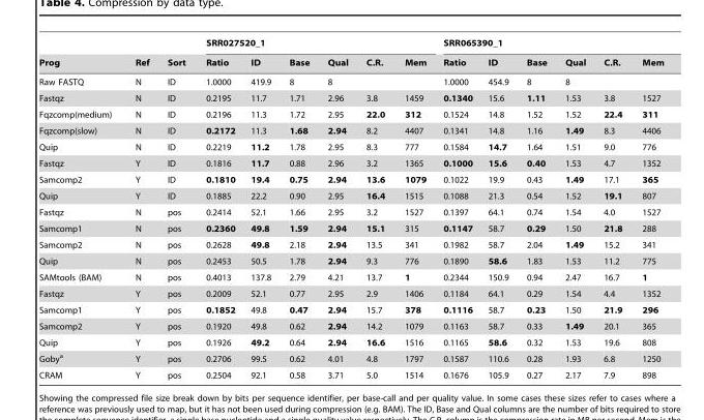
<table><thead><tr><td rowspan="2">Prog</td><td rowspan="2">Ref</td><td rowspan="2">Sort</td><td colspan="6">SRR027520_1</td><td colspan="6">SRR065390_1</td></tr><tr><td>Ratio</td><td>ID</td><td>Base</td><td>Qual</td><td>C.R.</td><td>Mem</td><td>Ratio</td><td>ID</td><td>Base</td><td>Qual</td><td>C.R.</td><td>Mem</td></tr></thead><tbody><tr><td>Raw FASTQ</td><td>N</td><td>ID</td><td>1.0000</td><td>419.9</td><td>8</td><td>8</td><td></td><td></td><td>1.0000</td><td>454.9</td><td>8</td><td>8</td><td></td><td></td></tr><tr><td>Fastqz</td><td>N</td><td>ID</td><td>0.2195</td><td>11.7</td><td>1.71</td><td>2.96</td><td>3.8</td><td>1459</td><td>0.1340</td><td>15.6</td><td>1.11</td><td>1.53</td><td>3.8</td><td>1527</td></tr><tr><td>Fqzcomp(medium)</td><td>N</td><td>ID</td><td>0.2196</td><td>11.3</td><td>1.72</td><td>2.95</td><td>22.0</td><td>312</td><td>0.1524</td><td>14.8</td><td>1.52</td><td>1.52</td><td>22.4</td><td>311</td></tr><tr><td>Fqzcomp(slow)</td><td>N</td><td>ID</td><td>0.2172</td><td>11.3</td><td>1.68</td><td>2.94</td><td>8.2</td><td>4407</td><td>0.1341</td><td>14.8</td><td>1.16</td><td>1.49</td><td>8.3</td><td>4406</td></tr><tr><td>Quip</td><td>N</td><td>ID</td><td>0.2219</td><td>11.2</td><td>1.78</td><td>2.95</td><td>8.3</td><td>777</td><td>0.1584</td><td>14.7</td><td>1.64</td><td>1.51</td><td>9.0</td><td>776</td></tr><tr><td>Fastqz</td><td>Y</td><td>ID</td><td>0.1816</td><td>11.7</td><td>0.88</td><td>2.96</td><td>3.2</td><td>1365</td><td>0.1000</td><td>15.6</td><td>0.40</td><td>1.53</td><td>4.7</td><td>1352</td></tr><tr><td>Samcomp2</td><td>Y</td><td>ID</td><td>0.1810</td><td>19.4</td><td>0.75</td><td>2.94</td><td>13.6</td><td>1079</td><td>0.1022</td><td>19.9</td><td>0.43</td><td>1.49</td><td>17.1</td><td>365</td></tr><tr><td>Quip</td><td>Y</td><td>ID</td><td>0.1885</td><td>22.2</td><td>0.90</td><td>2.95</td><td>16.4</td><td>1515</td><td>0.1088</td><td>21.3</td><td>0.54</td><td>1.52</td><td>19.1</td><td>807</td></tr><tr><td>Fastqz</td><td>N</td><td>pos</td><td>0.2414</td><td>52.1</td><td>1.66</td><td>2.95</td><td>3.2</td><td>1527</td><td>0.1397</td><td>64.1</td><td>0.74</td><td>1.54</td><td>4.0</td><td>1527</td></tr><tr><td>Samcomp1</td><td>N</td><td>pos</td><td>0.2360</td><td>49.8</td><td>1.59</td><td>2.94</td><td>15.1</td><td>315</td><td>0.1147</td><td>58.7</td><td>0.29</td><td>1.50</td><td>21.8</td><td>288</td></tr><tr><td>Samcomp2</td><td>N</td><td>pos</td><td>0.2628</td><td>49.8</td><td>2.18</td><td>2.94</td><td>13.5</td><td>341</td><td>0.1982</td><td>58.7</td><td>2.04</td><td>1.49</td><td>15.2</td><td>341</td></tr><tr><td>Quip</td><td>N</td><td>pos</td><td>0.2453</td><td>50.5</td><td>1.78</td><td>2.94</td><td>9.3</td><td>776</td><td>0.1890</td><td>58.6</td><td>1.83</td><td>1.53</td><td>11.2</td><td>775</td></tr><tr><td>SAMtools (BAM)</td><td>N</td><td>pos</td><td>0.4013</td><td>137.8</td><td>2.79</td><td>4.21</td><td>13.7</td><td>1</td><td>0.2344</td><td>150.9</td><td>0.94</td><td>2.47</td><td>16.7</td><td>1</td></tr><tr><td>Fastqz</td><td>Y</td><td>pos</td><td>0.2009</td><td>52.1</td><td>0.77</td><td>2.95</td><td>2.9</td><td>1406</td><td>0.1184</td><td>64.1</td><td>0.29</td><td>1.54</td><td>4.4</td><td>1352</td></tr><tr><td>Samcomp1</td><td>Y</td><td>pos</td><td>0.1852</td><td>49.8</td><td>0.47</td><td>2.94</td><td>15.7</td><td>378</td><td>0.1116</td><td>58.7</td><td>0.23</td><td>1.50</td><td>21.9</td><td>296</td></tr><tr><td>Samcomp2</td><td>Y</td><td>pos</td><td>0.1920</td><td>49.8</td><td>0.62</td><td>2.94</td><td>14.2</td><td>1079</td><td>0.1163</td><td>58.7</td><td>0.33</td><td>1.49</td><td>20.1</td><td>365</td></tr><tr><td>Quip</td><td>Y</td><td>pos</td><td>0.1926</td><td>49.2</td><td>0.64</td><td>2.94</td><td>16.6</td><td>1516</td><td>0.1165</td><td>58.6</td><td>0.32</td><td>1.53</td><td>19.6</td><td>808</td></tr><tr><td>Goby<sup>a</sup></td><td>Y</td><td>pos</td><td>0.2706</td><td>99.5</td><td>0.62</td><td>4.01</td><td>4.8</td><td>1797</td><td>0.1587</td><td>110.6</td><td>0.28</td><td>1.93</td><td>6.8</td><td>1250</td></tr><tr><td>CRAM</td><td>Y</td><td>pos</td><td>0.2504</td><td>92.1</td><td>0.58</td><td>3.71</td><td>5.0</td><td>1514</td><td>0.1676</td><td>105.9</td><td>0.27</td><td>2.17</td><td>7.9</td><td>898</td></tr></tbody></table>